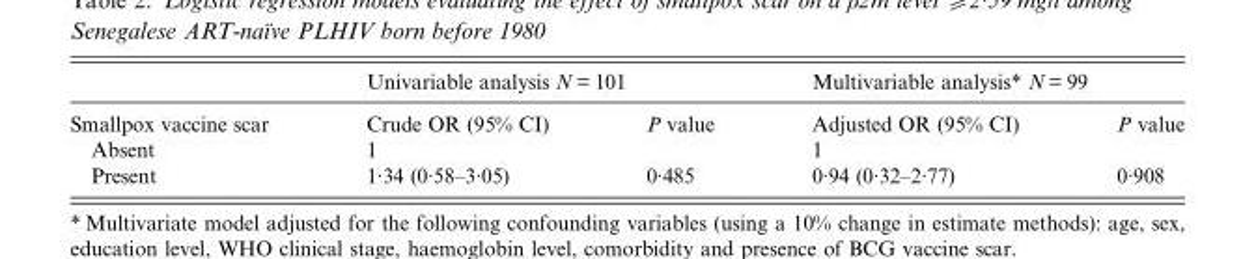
<table><thead><tr><td rowspan="2">Smallpox vaccine scar</td><td colspan="2">Univariable analysis N = 101</td><td colspan="2">Multivariable analysis* N = 99</td></tr><tr><td>Crude OR (95% CI)</td><td>P value</td><td>Adjusted OR (95% CI)</td><td>P value</td></tr></thead><tbody><tr><td>Absent</td><td>1</td><td></td><td>1</td><td></td></tr><tr><td>Present</td><td>1·34 (0·58–3·05)</td><td>0·485</td><td>0·94 (0·32–2·77)</td><td>0·908</td></tr></tbody></table>